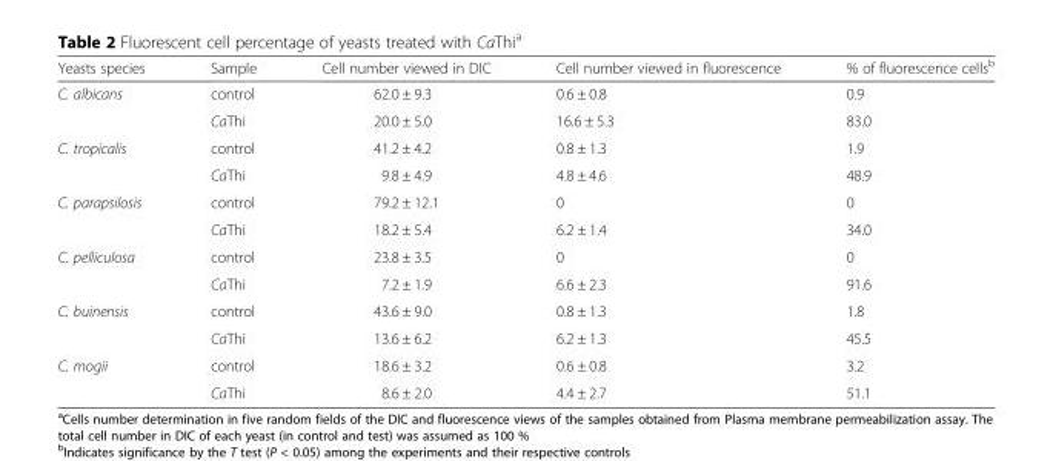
<table><thead><tr><td>Yeasts species</td><td>Sample</td><td>Cell number viewed in DIC</td><td>Cell number viewed in fluorescence</td><td>% of fluorescence cells<sup>b</sup></td></tr></thead><tbody><tr><td rowspan="2">C. albicans</td><td>control</td><td>62.0 ± 9.3</td><td>0.6 ± 0.8</td><td>0.9</td></tr><tr><td>CaThi</td><td>20.0 ± 5.0</td><td>16.6 ± 5.3</td><td>83.0</td></tr><tr><td rowspan="2">C. tropicalis</td><td>control</td><td>41.2 ± 4.2</td><td>0.8 ± 1.3</td><td>1.9</td></tr><tr><td>CaThi</td><td>9.8 ± 4.9</td><td>4.8 ± 4.6</td><td>48.9</td></tr><tr><td rowspan="2">C. parapsilosis</td><td>control</td><td>79.2 ± 12.1</td><td>0</td><td>0</td></tr><tr><td>CaThi</td><td>18.2 ± 5.4</td><td>6.2 ± 1.4</td><td>34.0</td></tr><tr><td rowspan="2">C. pelliculosa</td><td>control</td><td>23.8 ± 3.5</td><td>0</td><td>0</td></tr><tr><td>CaThi</td><td>7.2 ± 1.9</td><td>6.6 ± 2.3</td><td>91.6</td></tr><tr><td rowspan="2">C. buinensis</td><td>control</td><td>43.6 ± 9.0</td><td>0.8 ± 1.3</td><td>1.8</td></tr><tr><td>CaThi</td><td>13.6 ± 6.2</td><td>6.2 ± 1.3</td><td>45.5</td></tr><tr><td rowspan="2">C. mogii</td><td>control</td><td>18.6 ± 3.2</td><td>0.6 ± 0.8</td><td>3.2</td></tr><tr><td>CaThi</td><td>8.6 ± 2.0</td><td>4.4 ± 2.7</td><td>51.1</td></tr></tbody></table>